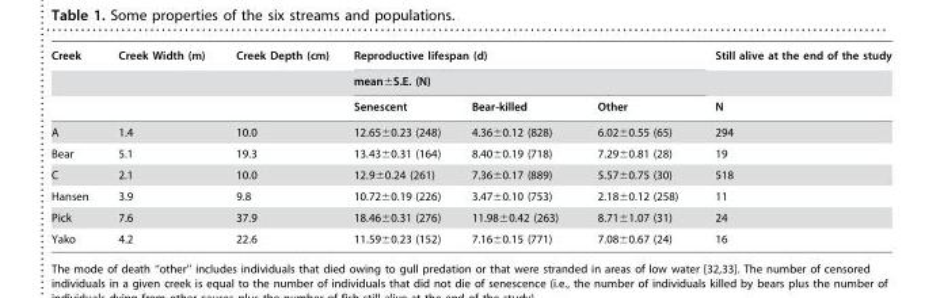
<table><thead><tr><td rowspan="3">Creek</td><td rowspan="3">Creek Width (m)</td><td rowspan="3">Creek Depth (cm)</td><td rowspan="2" colspan="3">Reproductive lifespan (d) mean±S.E. (N)</td><td rowspan="3">Still alive at the end of the study N</td></tr><tr></tr><tr><td>Senescent</td><td>Bear-killed</td><td>Other</td></tr></thead><tbody><tr><td>A</td><td>1.4</td><td>10.0</td><td>12.65±0.23 (248)</td><td>4.36±0.12 (828)</td><td>6.02±0.55 (65)</td><td>294</td></tr><tr><td>Bear</td><td>5.1</td><td>19.3</td><td>13.43±0.31 (164)</td><td>8.40±0.19 (718)</td><td>7.29±0.81 (28)</td><td>19</td></tr><tr><td>C</td><td>2.1</td><td>10.0</td><td>12.9±0.24 (261)</td><td>7.36±0.17 (889)</td><td>5.57±0.75 (30)</td><td>518</td></tr><tr><td>Hansen</td><td>3.9</td><td>9.8</td><td>10.72±0.19 (226)</td><td>3.47±0.10 (753)</td><td>2.18±0.12 (258)</td><td>11</td></tr><tr><td>Pick</td><td>7.6</td><td>37.9</td><td>18.46±0.31 (276)</td><td>11.98±0.42 (263)</td><td>8.71±1.07 (31)</td><td>24</td></tr><tr><td>Yako</td><td>4.2</td><td>22.6</td><td>11.59±0.23 (152)</td><td>7.16±0.15 (771)</td><td>7.08±0.67 (24)</td><td>16</td></tr></tbody></table>